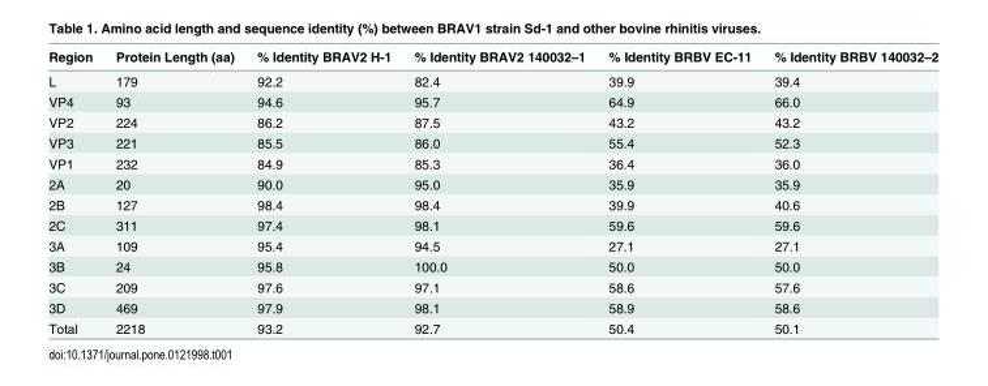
<table><thead><tr><td>Region</td><td>Protein Length (aa)</td><td>% Identity BRAV2 H-1</td><td>% Identity BRAV2 140032–1</td><td>% Identity BRBV EC-11</td><td>% Identity BRBV 140032–2</td></tr></thead><tbody><tr><td>L</td><td>179</td><td>92.2</td><td>82.4</td><td>39.9</td><td>39.4</td></tr><tr><td>VP4</td><td>93</td><td>94.6</td><td>95.7</td><td>64.9</td><td>66.0</td></tr><tr><td>VP2</td><td>224</td><td>86.2</td><td>87.5</td><td>43.2</td><td>43.2</td></tr><tr><td>VP3</td><td>221</td><td>85.5</td><td>86.0</td><td>55.4</td><td>52.3</td></tr><tr><td>VP1</td><td>232</td><td>84.9</td><td>85.3</td><td>36.4</td><td>36.0</td></tr><tr><td>2A</td><td>20</td><td>90.0</td><td>95.0</td><td>35.9</td><td>35.9</td></tr><tr><td>2B</td><td>127</td><td>98.4</td><td>98.4</td><td>39.9</td><td>40.6</td></tr><tr><td>2C</td><td>311</td><td>97.4</td><td>98.1</td><td>59.6</td><td>59.6</td></tr><tr><td>3A</td><td>109</td><td>95.4</td><td>94.5</td><td>27.1</td><td>27.1</td></tr><tr><td>3B</td><td>24</td><td>95.8</td><td>100.0</td><td>50.0</td><td>50.0</td></tr><tr><td>3C</td><td>209</td><td>97.6</td><td>97.1</td><td>58.6</td><td>57.6</td></tr><tr><td>3D</td><td>469</td><td>97.9</td><td>98.1</td><td>58.9</td><td>58.6</td></tr><tr><td>Total</td><td>2218</td><td>93.2</td><td>92.7</td><td>50.4</td><td>50.1</td></tr></tbody></table>